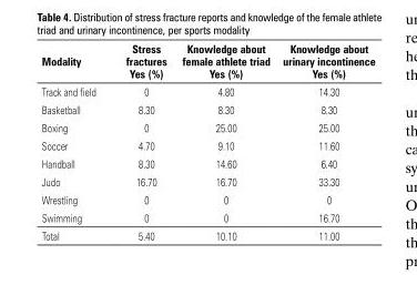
<table><thead><tr><td>Modality</td><td>Stress fractures Yes (%)</td><td>Knowledge about female athlete triad Yes (%)</td><td>Knowledge about urinary incontinence Yes (%)</td></tr></thead><tbody><tr><td>Track and field</td><td>0</td><td>4.80</td><td>14.30</td></tr><tr><td>Basketball</td><td>8.30</td><td>8.30</td><td>8.30</td></tr><tr><td>Boxing</td><td>0</td><td>25.00</td><td>25.00</td></tr><tr><td>Soccer</td><td>4.70</td><td>9.10</td><td>11.60</td></tr><tr><td>Handball</td><td>8.30</td><td>14.60</td><td>6.40</td></tr><tr><td>Judo</td><td>16.70</td><td>16.70</td><td>33.30</td></tr><tr><td>Wrestling</td><td>0</td><td>0</td><td>0</td></tr><tr><td>Swimming</td><td>0</td><td>0</td><td>16.70</td></tr><tr><td>Total</td><td>5.40</td><td>10.10</td><td>11.00</td></tr></tbody></table>